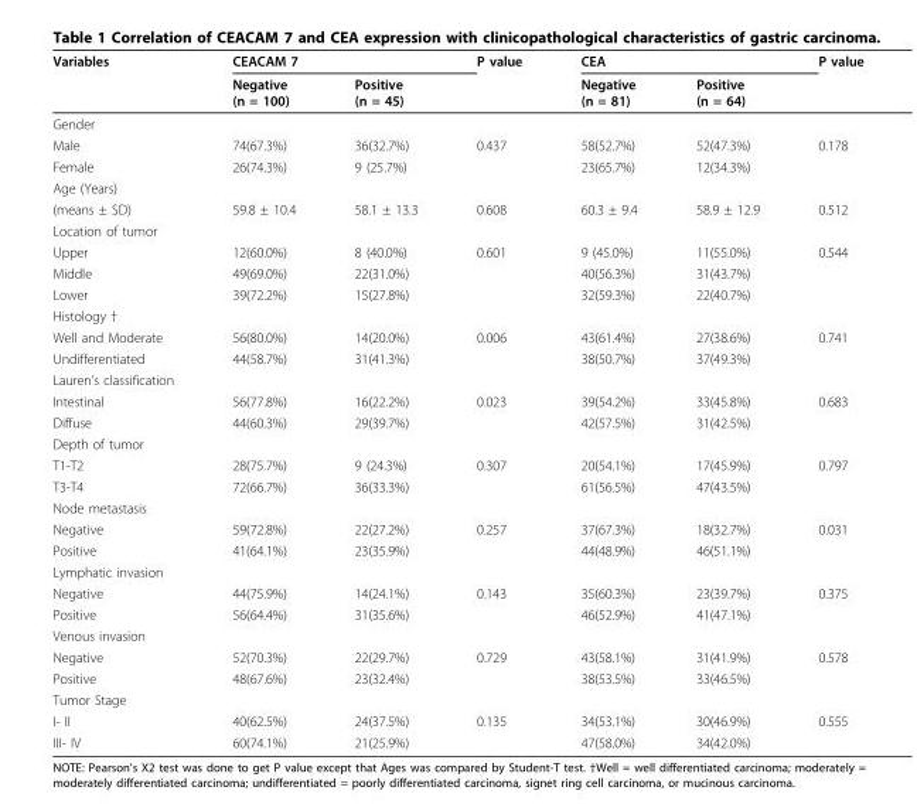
<table><thead><tr><td rowspan="2">Variables</td><td colspan="2">CEACAM 7</td><td rowspan="2">P value</td><td colspan="2">CEA</td><td rowspan="2">P value</td></tr><tr><td>Negative (n = 100)</td><td>Positive (n = 45)</td><td>Negative (n = 81)</td><td>Positive (n = 64)</td></tr></thead><tbody><tr><td colspan="7">Gender</td></tr><tr><td>Male</td><td>74(67.3%)</td><td>36(32.7%)</td><td>0.437</td><td>58(52.7%)</td><td>52(47.3%)</td><td>0.178</td></tr><tr><td>Female</td><td>26(74.3%)</td><td>9 (25.7%)</td><td></td><td>23(65.7%)</td><td>12(34.3%)</td><td></td></tr><tr><td colspan="7">Age (Years)</td></tr><tr><td>(means ± SD)</td><td>59.8 ± 10.4</td><td>58.1 ± 13.3</td><td>0.608</td><td>60.3 ± 9.4</td><td>58.9 ± 12.9</td><td>0.512</td></tr><tr><td colspan="7">Location of tumor</td></tr><tr><td>Upper</td><td>12(60.0%)</td><td>8 (40.0%)</td><td>0.601</td><td>9 (45.0%)</td><td>11(55.0%)</td><td>0.544</td></tr><tr><td>Middle</td><td>49(69.0%)</td><td>22(31.0%)</td><td></td><td>40(56.3%)</td><td>31(43.7%)</td><td></td></tr><tr><td>Lower</td><td>39(72.2%)</td><td>15(27.8%)</td><td></td><td>32(59.3%)</td><td>22(40.7%)</td><td></td></tr><tr><td colspan="7">Histology †</td></tr><tr><td>Well and Moderate</td><td>56(80.0%)</td><td>14(20.0%)</td><td>0.006</td><td>43(61.4%)</td><td>27(38.6%)</td><td>0.741</td></tr><tr><td>Undifferentiated</td><td>44(58.7%)</td><td>31(41.3%)</td><td></td><td>38(50.7%)</td><td>37(49.3%)</td><td></td></tr><tr><td colspan="7">Lauren’s classification</td></tr><tr><td>Intestinal</td><td>56(77.8%)</td><td>16(22.2%)</td><td>0.023</td><td>39(54.2%)</td><td>33(45.8%)</td><td>0.683</td></tr><tr><td>Diffuse</td><td>44(60.3%)</td><td>29(39.7%)</td><td></td><td>42(57.5%)</td><td>31(42.5%)</td><td></td></tr><tr><td colspan="7">Depth of tumor</td></tr><tr><td>T1-T2</td><td>28(75.7%)</td><td>9 (24.3%)</td><td>0.307</td><td>20(54.1%)</td><td>17(45.9%)</td><td>0.797</td></tr><tr><td>T3-T4</td><td>72(66.7%)</td><td>36(33.3%)</td><td></td><td>61(56.5%)</td><td>47(43.5%)</td><td></td></tr><tr><td colspan="7">Node metastasis</td></tr><tr><td>Negative</td><td>59(72.8%)</td><td>22(27.2%)</td><td>0.257</td><td>37(67.3%)</td><td>18(32.7%)</td><td>0.031</td></tr><tr><td>Positive</td><td>41(64.1%)</td><td>23(35.9%)</td><td></td><td>44(48.9%)</td><td>46(51.1%)</td><td></td></tr><tr><td colspan="7">Lymphatic invasion</td></tr><tr><td>Negative</td><td>44(75.9%)</td><td>14(24.1%)</td><td>0.143</td><td>35(60.3%)</td><td>23(39.7%)</td><td>0.375</td></tr><tr><td>Positive</td><td>56(64.4%)</td><td>31(35.6%)</td><td></td><td>46(52.9%)</td><td>41(47.1%)</td><td></td></tr><tr><td colspan="7">Venous invasion</td></tr><tr><td>Negative</td><td>52(70.3%)</td><td>22(29.7%)</td><td>0.729</td><td>43(58.1%)</td><td>31(41.9%)</td><td>0.578</td></tr><tr><td>Positive</td><td>48(67.6%)</td><td>23(32.4%)</td><td></td><td>38(53.5%)</td><td>33(46.5%)</td><td></td></tr><tr><td colspan="7">Tumor Stage</td></tr><tr><td>I- II</td><td>40(62.5%)</td><td>24(37.5%)</td><td>0.135</td><td>34(53.1%)</td><td>30(46.9%)</td><td>0.555</td></tr><tr><td>III- IV</td><td>60(74.1%)</td><td>21(25.9%)</td><td></td><td>47(58.0%)</td><td>34(42.0%)</td><td></td></tr></tbody></table>